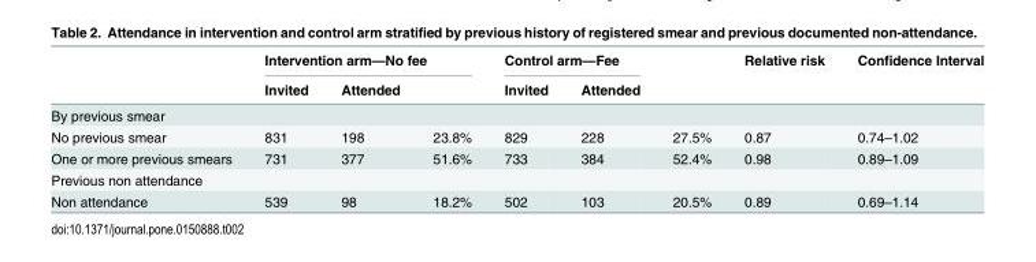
<table><thead><tr><td rowspan="2"></td><td colspan="3">Intervention arm—No fee</td><td colspan="2">Control arm—Fee</td><td rowspan="2"></td><td rowspan="2">Relative risk</td><td rowspan="2">Confidence Interval</td></tr><tr><td>Invited</td><td>Attended</td><td></td><td>Invited</td><td>Attended</td></tr></thead><tbody><tr><td colspan="9">By previous smear</td></tr><tr><td>No previous smear</td><td>831</td><td>198</td><td>23.8%</td><td>829</td><td>228</td><td>27.5%</td><td>0.87</td><td>0.74–1.02</td></tr><tr><td>One or more previous smears</td><td>731</td><td>377</td><td>51.6%</td><td>733</td><td>384</td><td>52.4%</td><td>0.98</td><td>0.89–1.09</td></tr><tr><td colspan="9">Previous non attendance</td></tr><tr><td>Non attendance</td><td>539</td><td>98</td><td>18.2%</td><td>502</td><td>103</td><td>20.5%</td><td>0.89</td><td>0.69–1.14</td></tr></tbody></table>